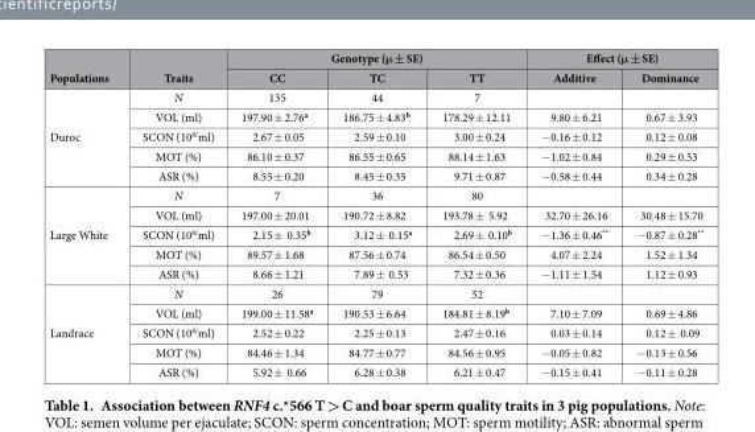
<table><thead><tr><td rowspan="2">Populations</td><td rowspan="2">Traits</td><td colspan="3">Genotype (μ ± SE)</td><td colspan="2">Effect (μ ± SE)</td></tr><tr><td>CC</td><td>TC</td><td>TT</td><td>Additive</td><td>Dominance</td></tr></thead><tbody><tr><td rowspan="5">Duroc</td><td>N</td><td>135</td><td>44</td><td>7</td><td></td><td></td></tr><tr><td>VOL (ml)</td><td>197.90 ± 2.76<sup>a</sup></td><td>186.75 ± 4.83<sup>b</sup></td><td>178.29 ± 12.11</td><td>9.80 ± 6.21</td><td>0.67 ± 3.93</td></tr><tr><td>SCON (10<sup>8/</sup>ml)</td><td>2.67 ± 0.05</td><td>2.59 ± 0.10</td><td>3.00 ± 0.24</td><td>−0.16 ± 0.12</td><td>0.12 ± 0.08</td></tr><tr><td>MOT (%)</td><td>86.10 ± 0.37</td><td>86.55 ± 0.65</td><td>88.14 ± 1.63</td><td>−1.02 ± 0.84</td><td>0.29 ± 0.53</td></tr><tr><td>ASR (%)</td><td>8.55 ± 0.20</td><td>8.45 ± 0.35</td><td>9.71 ± 0.87</td><td>−0.58 ± 0.44</td><td>0.34 ± 0.28</td></tr><tr><td rowspan="5">Large White</td><td>N</td><td>7</td><td>36</td><td>80</td><td></td><td></td></tr><tr><td>VOL (ml)</td><td>197.00 ± 20.01</td><td>190.72 ± 8.82</td><td>193.78 ± 5.92</td><td>32.70 ± 26.16</td><td>30.48 ± 15.70</td></tr><tr><td>SCON (10<sup>8/</sup>ml)</td><td>2.15 ± 0.35<sup>b</sup></td><td>3.12 ± 0.15<sup>a</sup></td><td>2.69 ± 0.10<sup>b</sup></td><td>−1.36 ± 0.46**</td><td>−0.87 ± 0.28**</td></tr><tr><td>MOT (%)</td><td>89.57 ± 1.68</td><td>87.56 ± 0.74</td><td>86.54 ± 0.50</td><td>4.07 ± 2.24</td><td>1.52 ± 1.34</td></tr><tr><td>ASR (%)</td><td>8.66 ± 1.21</td><td>7.89 ± 0.53</td><td>7.32 ± 0.36</td><td>−1.11 ± 1.54</td><td>1.12 ± 0.93</td></tr><tr><td rowspan="5">Landrace</td><td>N</td><td>26</td><td>79</td><td>52</td><td></td><td></td></tr><tr><td>VOL (ml)</td><td>199.00 ± 11.58<sup>a</sup></td><td>190.53 ± 6.64</td><td>184.81 ± 8.19<sup>b</sup></td><td>7.10 ± 7.09</td><td>0.69 ± 4.86</td></tr><tr><td>SCON (10<sup>8/</sup>ml)</td><td>2.52 ± 0.22</td><td>2.25 ± 0.13</td><td>2.47 ± 0.16</td><td>0.03 ± 0.14</td><td>0.12 ± 0.09</td></tr><tr><td>MOT (%)</td><td>84.46 ± 1.34</td><td>84.77 ± 0.77</td><td>84.56 ± 0.95</td><td>−0.05 ± 0.82</td><td>−0.13 ± 0.56</td></tr><tr><td>ASR (%)</td><td>5.92 ± 0.66</td><td>6.28 ± 0.38</td><td>6.21 ± 0.47</td><td>−0.15 ± 0.41</td><td>−0.11 ± 0.28</td></tr></tbody></table>